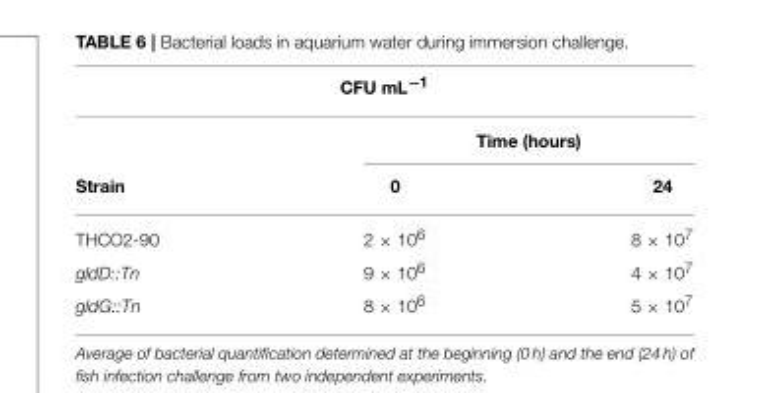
<table><thead><tr><td colspan="3">CFU mL<sup>−1</sup></td></tr><tr><td rowspan="2">Strain</td><td colspan="2">Time (hours)</td></tr><tr><td>0</td><td>24</td></tr></thead><tbody><tr><td>THCO2-90</td><td>2 × 10<sup>6</sup></td><td>8 × 10<sup>7</sup></td></tr><tr><td>gldD::Tn</td><td>9 × 10<sup>6</sup></td><td>4 × 10<sup>7</sup></td></tr><tr><td>gldG::Tn</td><td>8 × 10<sup>6</sup></td><td>5 × 10<sup>7</sup></td></tr></tbody></table>